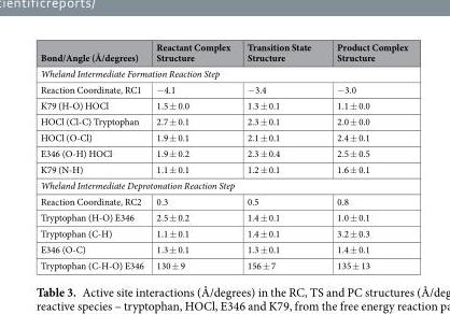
<table><thead><tr><td>Bond/Angle (Å/degrees)</td><td>Reactant Complex Structure</td><td>Transition State Structure</td><td>Product Complex Structure</td></tr></thead><tbody><tr><td colspan="4">Wheland Intermediate Formation Reaction Step</td></tr><tr><td>Reaction Coordinate, RC1</td><td>−4.1</td><td>−3.4</td><td>−3.0</td></tr><tr><td>K79 (H-O) HOCl</td><td>1.5 ± 0.0</td><td>1.3 ± 0.1</td><td>1.1 ± 0.0</td></tr><tr><td>HOCl (Cl-C) Tryptophan</td><td>2.7 ± 0.1</td><td>2.3 ± 0.1</td><td>2.0 ± 0.0</td></tr><tr><td>HOCl (O-Cl)</td><td>1.9 ± 0.1</td><td>2.1 ± 0.1</td><td>2.4 ± 0.1</td></tr><tr><td>E346 (O-H) HOCl</td><td>1.9 ± 0.2</td><td>2.3 ± 0.4</td><td>2.5 ± 0.5</td></tr><tr><td>K79 (N-H)</td><td>1.1 ± 0.1</td><td>1.2 ± 0.1</td><td>1.6 ± 0.1</td></tr><tr><td colspan="4">Wheland Intermediate Deprotonation Reaction Step</td></tr><tr><td>Reaction Coordinate, RC2</td><td>0.3</td><td>0.5</td><td>0.8</td></tr><tr><td>Tryptophan (H-O) E346</td><td>2.5 ± 0.2</td><td>1.4 ± 0.1</td><td>1.0 ± 0.1</td></tr><tr><td>Tryptophan (C-H)</td><td>1.1 ± 0.1</td><td>1.4 ± 0.1</td><td>3.2 ± 0.3</td></tr><tr><td>E346 (O-C)</td><td>1.3 ± 0.1</td><td>1.3 ± 0.1</td><td>1.4 ± 0.1</td></tr><tr><td>Tryptophan (C-H-O) E346</td><td>130 ± 9</td><td>156 ± 7</td><td>135 ± 13</td></tr></tbody></table>